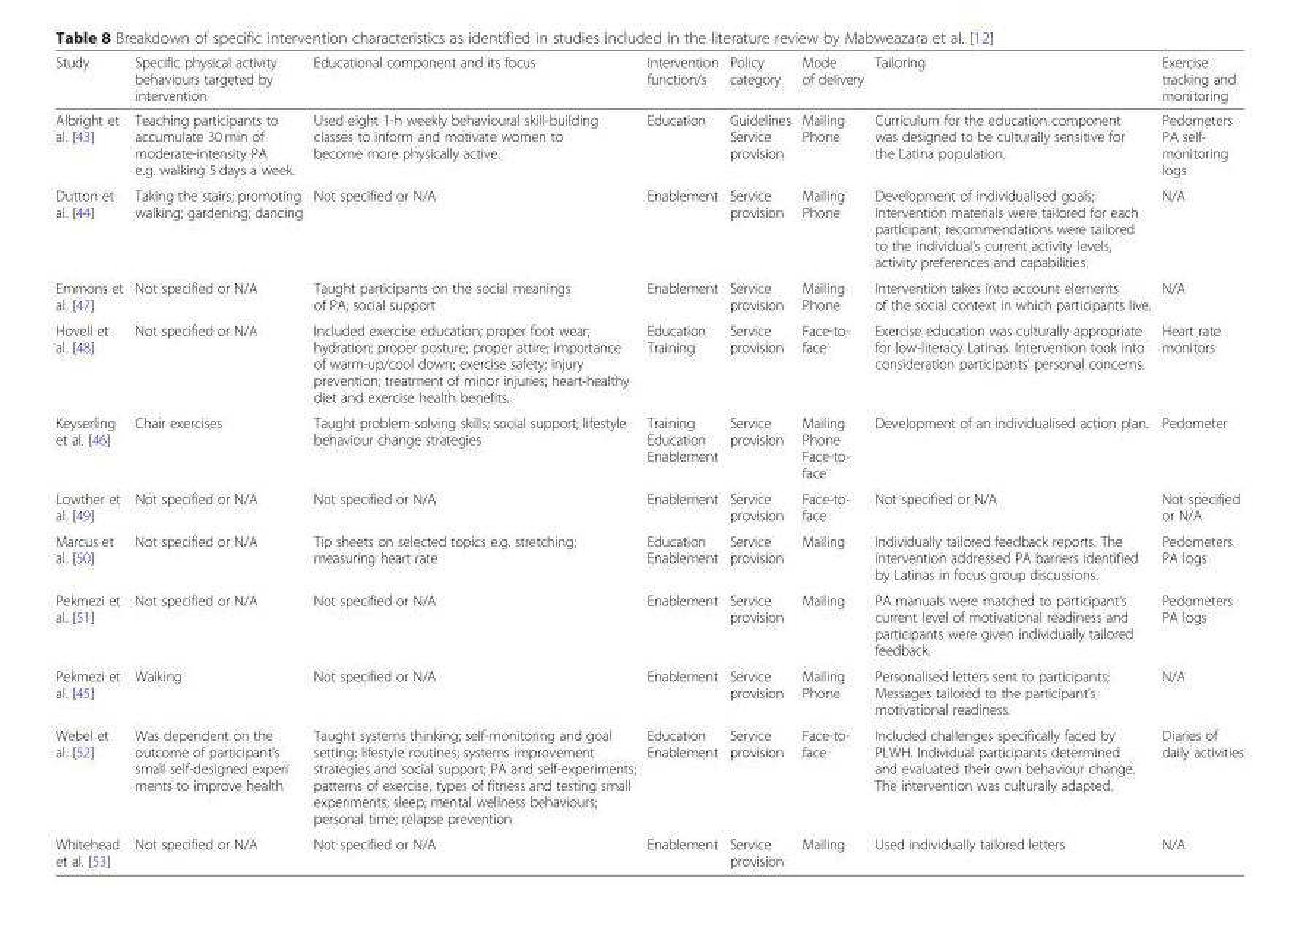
<table><thead><tr><td>Study</td><td>Specific physical activity behaviours targeted by intervention</td><td>Educational component and its focus</td><td>Intervention function/s</td><td>Policy category</td><td>Mode of delivery</td><td>Tailoring</td><td>Exercise tracking and monitoring</td></tr></thead><tbody><tr><td>Albright et al. [43]</td><td>Teaching participants to accumulate 30 min of moderate-intensity PA e.g. walking 5 days a week.</td><td>Used eight 1-h weekly behavioural skill-building classes to inform and motivate women to become more physically active.</td><td>Education</td><td>Guidelines Service provision</td><td>Mailing Phone</td><td>Curriculum for the education component was designed to be culturally sensitive for the Latina population.</td><td>Pedometers PA self- monitoring logs</td></tr><tr><td>Dutton et al. [44]</td><td>Taking the stairs; promoting walking; gardening; dancing</td><td>Not specified or N/A</td><td>Enablement</td><td>Service provision</td><td>Mailing Phone</td><td>Development of individualised goals; Intervention materials were tailored for each participant; recommendations were tailored to the individual’s current activity levels, activity preferences and capabilities.</td><td>N/A</td></tr><tr><td>Emmons et al. [47]</td><td>Not specified or N/A</td><td>Taught participants on the social meanings of PA; social support</td><td>Enablement</td><td>Service provision</td><td>Mailing Phone</td><td>Intervention takes into account elements of the social context in which participants live.</td><td>N/A</td></tr><tr><td>Hovell et al. [48]</td><td>Not specified or N/A</td><td>Included exercise education; proper foot wear; hydration; proper posture; proper attire; importance of warm-up/cool down; exercise safety; injury prevention; treatment of minor injuries; heart-healthy diet and exercise health benefits.</td><td>Education Training</td><td>Service provision</td><td>Face-to- face</td><td>Exercise education was culturally appropriate for low-literacy Latinas. Intervention took into consideration participants’ personal concerns.</td><td>Heart rate monitors</td></tr><tr><td>Keyserling et al. [46]</td><td>Chair exercises</td><td>Taught problem solving skills; social support; lifestyle behaviour change strategies</td><td>Training Education Enablement</td><td>Service provision</td><td>Mailing Phone Face-to- face</td><td>Development of an individualised action plan.</td><td>Pedometer</td></tr><tr><td>Lowther et al. [49]</td><td>Not specified or N/A</td><td>Not specified or N/A</td><td>Enablement</td><td>Service provision</td><td>Face-to- face</td><td>Not specified or N/A</td><td>Not specified or N/A</td></tr><tr><td>Marcus et al. [50]</td><td>Not specified or N/A</td><td>Tip sheets on selected topics e.g. stretching; measuring heart rate</td><td>Education Enablement</td><td>Service provision</td><td>Mailing</td><td>Individually tailored feedback reports. The intervention addressed PA barriers identified by Latinas in focus group discussions.</td><td>Pedometers PA logs</td></tr><tr><td>Pekmezi et al. [51]</td><td>Not specified or N/A</td><td>Not specified or N/A</td><td>Enablement</td><td>Service provision</td><td>Mailing</td><td>PA manuals were matched to participant’s current level of motivational readiness and participants were given individually tailored feedback.</td><td>Pedometers PA logs</td></tr><tr><td>Pekmezi et al. [45]</td><td>Walking</td><td>Not specified or N/A</td><td>Enablement</td><td>Service provision</td><td>Mailing Phone</td><td>Personalised letters sent to participants; Messages tailored to the participant’s motivational readiness.</td><td>N/A</td></tr><tr><td>Webel et al. [52]</td><td>Was dependent on the outcome of participant’s small self-designed experi ments to improve health</td><td>Taught systems thinking; self-monitoring and goal setting; lifestyle routines; systems improvement strategies and social support; PA and self-experiments; patterns of exercise, types of fitness and testing small experiments; sleep; mental wellness behaviours; personal time; relapse prevention</td><td>Education Enablement</td><td>Service provision</td><td>Face-to- face</td><td>Included challenges specifically faced by PLWH. Individual participants determined and evaluated their own behaviour change. The intervention was culturally adapted.</td><td>Diaries of daily activities</td></tr><tr><td>Whitehead et al. [53]</td><td>Not specified or N/A</td><td>Not specified or N/A</td><td>Enablement</td><td>Service provision</td><td>Mailing</td><td>Used individually tailored letters</td><td>N/A</td></tr></tbody></table>